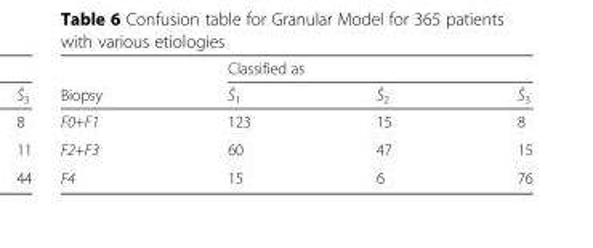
<table><thead><tr><td rowspan="2">Biopsy</td><td colspan="3">Classified as</td></tr><tr><td>Ŝ<sub>1</sub></td><td>Ŝ<sub>2</sub></td><td>Ŝ<sub>3</sub></td></tr></thead><tbody><tr><td>F0+F1</td><td>123</td><td>15</td><td>8</td></tr><tr><td>F2+F3</td><td>60</td><td>47</td><td>15</td></tr><tr><td>F4</td><td>15</td><td>6</td><td>76</td></tr></tbody></table>